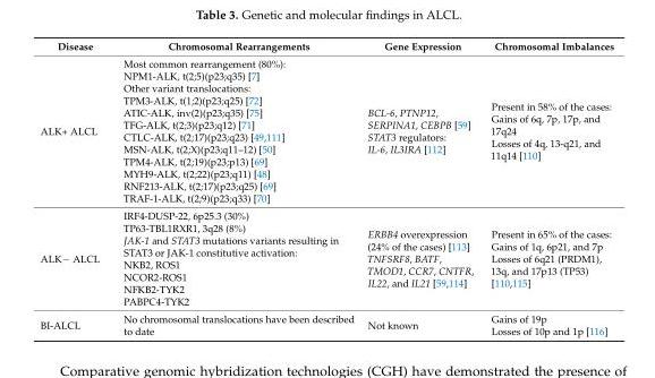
<table><thead><tr><td>Disease</td><td>Chromosomal Rearrangements</td><td>Gene Expression</td><td>Chromosomal Imbalances</td></tr></thead><tbody><tr><td>ALK+ ALCL</td><td>Most common rearrangement (80%): NPM1-ALK, t(2;5)(p23;q35) [7] Other variant translocations: TPM3-ALK, t(1;2)(p23;q25) [72] ATIC-ALK, inv(2)(p23;q35) [75] TFG-ALK, t(2;3)(p23;q12) [71] CTLC-ALK, t(2;17)(p23;q23) [49,111] MSN-ALK, t(2;X)(p23;q11–12) [50] TPM4-ALK, t(2;19)(p23;p13) [69] MYH9-ALK, t(2;22)(p23;q11) [48] RNF213-ALK, t(2;17)(p23;q25) [69] TRAF-1-ALK, t(2;9)(p23;q33) [70]</td><td>BCL-6, PTNP12, SERPINA1, CEBPB [59] STAT3 regulators: IL-6, IL3IRA [112]</td><td>Present in 58% of the cases: Gains of 6q, 7p, 17p, and 17q24 Losses of 4q, 13-q21, and 11q14 [110]</td></tr><tr><td>ALK− ALCL</td><td>IRF4-DUSP-22, 6p25.3 (30%) TP63-TBL1RXR1, 3q28 (8%) JAK-1 and STAT3 mutations variants resulting in STAT3 or JAK-1 constitutive activation: NKB2, ROS1 NCOR2-ROS1 NFKB2-TYK2 PABPC4-TYK2</td><td>ERBB4 overexpression (24% of the cases) [113] TNFSRF8, BATF, TMOD1, CCR7, CNTFR, IL22, and IL21 [59,114]</td><td>Present in 65% of the cases: Gains of 1q, 6p21, and 7p Losses of 6q21 (PRDM1), 13q, and 17p13 (TP53) [110,115]</td></tr><tr><td>BI-ALCL</td><td>No chromosomal translocations have been described to date</td><td>Not known</td><td>Gains of 19p Losses of 10p and 1p [116]</td></tr></tbody></table>